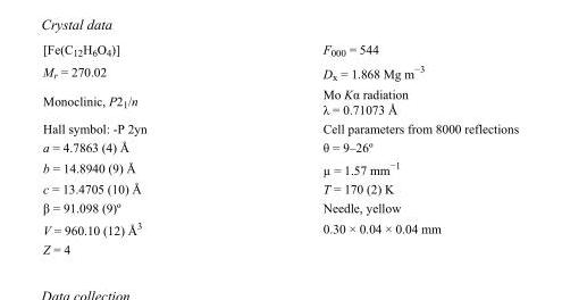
<table><tbody><tr><td>[Fe(C<sub>12</sub>H<sub>6</sub>O<sub>4</sub>)]</td><td>F000 = 544</td></tr><tr><td>M<sub>r</sub> = 270.02</td><td>D<sub>x</sub> = 1.868 Mg m<sup>−3</sup></td></tr><tr><td>Monoclinic, P2<sub>1</sub>/n</td><td>Mo Kα radiation λ = 0.71073 Å</td></tr><tr><td>Hall symbol: -P 2yn</td><td>Cell parameters from 8000 reflections</td></tr><tr><td>a = 4.7863 (4) Å</td><td>θ = 9–26º</td></tr><tr><td>b = 14.8940 (9) Å</td><td>µ = 1.57 mm<sup>−1</sup></td></tr><tr><td>c = 13.4705 (10) Å</td><td>T = 170 (2) K</td></tr><tr><td>β = 91.098 (9)º</td><td>Needle, yellow</td></tr><tr><td>V = 960.10 (12) Å<sup>3</sup></td><td>0.30 × 0.04 × 0.04 mm</td></tr><tr><td>Z = 4</td><td></td></tr></tbody></table>